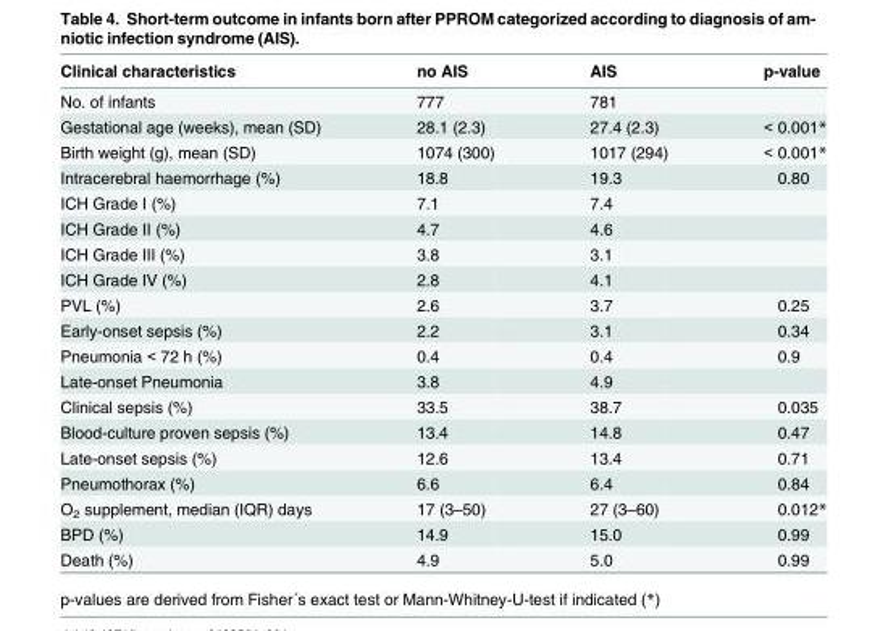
<table><thead><tr><td>Clinical characteristics</td><td>no AIS</td><td>AIS</td><td>p-value</td></tr></thead><tbody><tr><td>No. of infants</td><td>777</td><td>781</td><td></td></tr><tr><td>Gestational age (weeks), mean (SD)</td><td>28.1 (2.3)</td><td>27.4 (2.3)</td><td>&lt; 0.001*</td></tr><tr><td>Birth weight (g), mean (SD)</td><td>1074 (300)</td><td>1017 (294)</td><td>&lt; 0.001*</td></tr><tr><td>Intracerebral haemorrhage (%)</td><td>18.8</td><td>19.3</td><td>0.80</td></tr><tr><td>ICH Grade I (%)</td><td>7.1</td><td>7.4</td><td></td></tr><tr><td>ICH Grade II (%)</td><td>4.7</td><td>4.6</td><td></td></tr><tr><td>ICH Grade III (%)</td><td>3.8</td><td>3.1</td><td></td></tr><tr><td>ICH Grade IV (%)</td><td>2.8</td><td>4.1</td><td></td></tr><tr><td>PVL (%)</td><td>2.6</td><td>3.7</td><td>0.25</td></tr><tr><td>Early-onset sepsis (%)</td><td>2.2</td><td>3.1</td><td>0.34</td></tr><tr><td>Pneumonia &lt; 72 h (%)</td><td>0.4</td><td>0.4</td><td>0.9</td></tr><tr><td>Late-onset Pneumonia</td><td>3.8</td><td>4.9</td><td></td></tr><tr><td>Clinical sepsis (%)</td><td>33.5</td><td>38.7</td><td>0.035</td></tr><tr><td>Blood-culture proven sepsis (%)</td><td>13.4</td><td>14.8</td><td>0.47</td></tr><tr><td>Late-onset sepsis (%)</td><td>12.6</td><td>13.4</td><td>0.71</td></tr><tr><td>Pneumothorax (%)</td><td>6.6</td><td>6.4</td><td>0.84</td></tr><tr><td>O<sub>2</sub> supplement, median (IQR) days</td><td>17 (3–50)</td><td>27 (3–60)</td><td>0.012*</td></tr><tr><td>BPD (%)</td><td>14.9</td><td>15.0</td><td>0.99</td></tr><tr><td>Death (%)</td><td>4.9</td><td>5.0</td><td>0.99</td></tr></tbody></table>